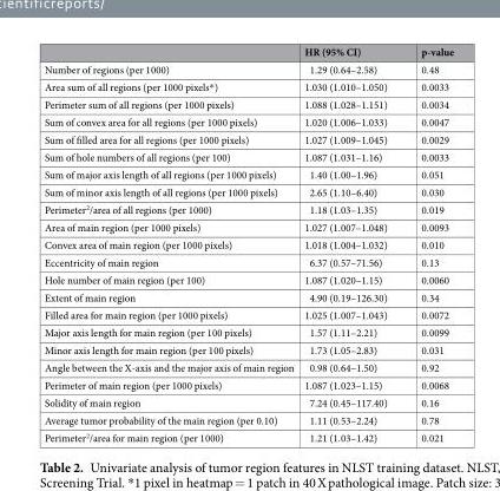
<table><thead><tr><td></td><td>HR (95% CI)</td><td>p-value</td></tr></thead><tbody><tr><td>Number of regions (per 1000)</td><td>1.29 (0.64–2.58)</td><td>0.48</td></tr><tr><td>Area sum of all regions (per 1000 pixels*)</td><td>1.030 (1.010–1.050)</td><td>0.0033</td></tr><tr><td>Perimeter sum of all regions (per 1000 pixels)</td><td>1.088 (1.028–1.151)</td><td>0.0034</td></tr><tr><td>Sum of convex area for all regions (per 1000 pixels)</td><td>1.020 (1.006–1.033)</td><td>0.0047</td></tr><tr><td>Sum of filled area for all regions (per 1000 pixels)</td><td>1.027 (1.009–1.045)</td><td>0.0029</td></tr><tr><td>Sum of hole numbers of all regions (per 100)</td><td>1.087 (1.031–1.16)</td><td>0.0033</td></tr><tr><td>Sum of major axis length of all regions (per 1000 pixels)</td><td>1.40 (1.00–1.96)</td><td>0.051</td></tr><tr><td>Sum of minor axis length of all regions (per 1000 pixels)</td><td>2.65 (1.10–6.40)</td><td>0.030</td></tr><tr><td>Perimeter<sup>2</sup>/area of all regions (per 1000)</td><td>1.18 (1.03–1.35)</td><td>0.019</td></tr><tr><td>Area of main region (per 1000 pixels)</td><td>1.027 (1.007–1.048)</td><td>0.0093</td></tr><tr><td>Convex area of main region (per 1000 pixels)</td><td>1.018 (1.004–1.032)</td><td>0.010</td></tr><tr><td>Eccentricity of main region</td><td>6.37 (0.57–71.56)</td><td>0.13</td></tr><tr><td>Hole number of main region (per 100)</td><td>1.087 (1.020–1.15)</td><td>0.0060</td></tr><tr><td>Extent of main region</td><td>4.90 (0.19–126.30)</td><td>0.34</td></tr><tr><td>Filled area for main region (per 1000 pixels)</td><td>1.025 (1.007–1.043)</td><td>0.0072</td></tr><tr><td>Major axis length for main region (per 100 pixels)</td><td>1.57 (1.11–2.21)</td><td>0.0099</td></tr><tr><td>Minor axis length for main region (per 100 pixels)</td><td>1.73 (1.05–2.83)</td><td>0.031</td></tr><tr><td>Angle between the X-axis and the major axis of main region</td><td>0.98 (0.64–1.50)</td><td>0.92</td></tr><tr><td>Perimeter of main region (per 1000 pixels)</td><td>1.087 (1.023–1.15)</td><td>0.0068</td></tr><tr><td>Solidity of main region</td><td>7.24 (0.45–117.40)</td><td>0.16</td></tr><tr><td>Average tumor probability of the main region (per 0.10)</td><td>1.11 (0.53–2.24)</td><td>0.78</td></tr><tr><td>Perimeter<sup>2</sup>/area for main region (per 1000)</td><td>1.21 (1.03–1.42)</td><td>0.021</td></tr></tbody></table>